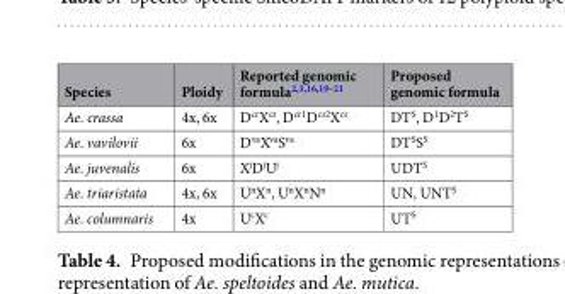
<table><thead><tr><td>Species</td><td>Ploidy</td><td>Reported genomic formula<sup>2,3,16,19–21</sup></td><td>Proposed genomic formula</td></tr></thead><tbody><tr><td>Ae. crassa</td><td>4x, 6x</td><td>D<sup>cr</sup>X<sup>cr</sup>, D<sup>cr1</sup>D<sup>cr2</sup>X<sup>cr</sup></td><td>DT<sup>S</sup>, D<sup>1</sup>D<sup>2</sup>T<sup>S</sup></td></tr><tr><td>Ae. vavilovii</td><td>6x</td><td>D<sup>va</sup>X<sup>va</sup>S<sup>va</sup></td><td>DT<sup>S</sup>S<sup>S</sup></td></tr><tr><td>Ae. juvenalis</td><td>6x</td><td>X<sup>j</sup>D<sup>j</sup>U<sup>j</sup></td><td>UDT<sup>S</sup></td></tr><tr><td>Ae. triaristata</td><td>4x, 6x</td><td>U<sup>n</sup>X<sup>n</sup>, U<sup>n</sup>X<sup>n</sup>N<sup>n</sup></td><td>UN, UNT<sup>S</sup></td></tr><tr><td>Ae. columnaris</td><td>4x</td><td>U<sup>c</sup>X<sup>c</sup></td><td>UT<sup>S</sup></td></tr></tbody></table>